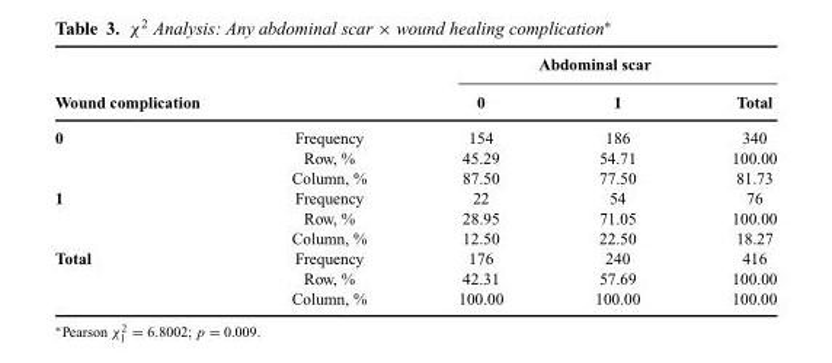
<table><thead><tr><td rowspan="2">Wound complication</td><td rowspan="2"></td><td colspan="3">Abdominal scar</td></tr><tr><td>0</td><td>1</td><td>Total</td></tr></thead><tbody><tr><td rowspan="3">0</td><td>Frequency</td><td>154</td><td>186</td><td>340</td></tr><tr><td>Row, %</td><td>45.29</td><td>54.71</td><td>100.00</td></tr><tr><td>Column, %</td><td>87.50</td><td>77.50</td><td>81.73</td></tr><tr><td rowspan="3">1</td><td>Frequency</td><td>22</td><td>54</td><td>76</td></tr><tr><td>Row, %</td><td>28.95</td><td>71.05</td><td>100.00</td></tr><tr><td>Column, %</td><td>12.50</td><td>22.50</td><td>18.27</td></tr><tr><td rowspan="3">Total</td><td>Frequency</td><td>176</td><td>240</td><td>416</td></tr><tr><td>Row, %</td><td>42.31</td><td>57.69</td><td>100.00</td></tr><tr><td>Column, %</td><td>100.00</td><td>100.00</td><td>100.00</td></tr></tbody></table>